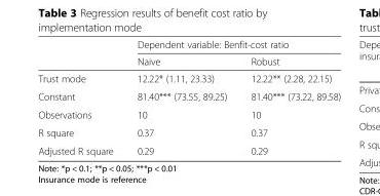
<table><thead><tr><td rowspan="2"></td><td colspan="2">Dependent variable: Benfit-cost ratio</td></tr><tr><td>Naive</td><td>Robust</td></tr></thead><tbody><tr><td>Trust mode</td><td>12.22* (1.11, 23.33)</td><td>12.22** (2.28, 22.15)</td></tr><tr><td>Constant</td><td>81.40*** (73.55, 89.25)</td><td>81.40*** (73.22, 89.58)</td></tr><tr><td>Observations</td><td>10</td><td>10</td></tr><tr><td>R square</td><td>0.37</td><td>0.37</td></tr><tr><td>Adjusted R square</td><td>0.29</td><td>0.29</td></tr></tbody></table>